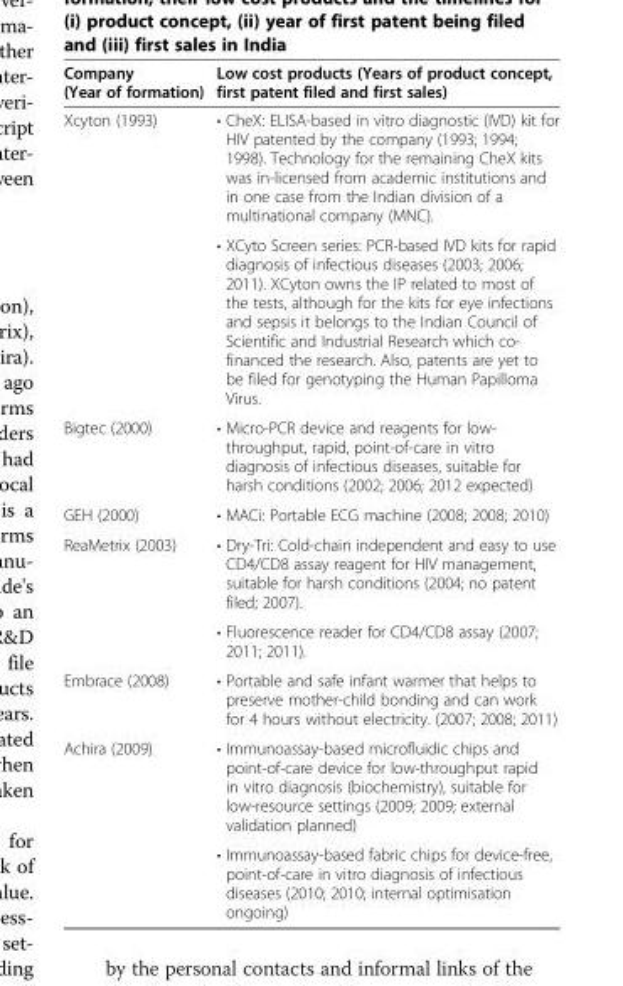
<table><thead><tr><td>Company (Year of formation)</td><td>Low cost products (Years of product concept, first patent filed and first sales)</td></tr></thead><tbody><tr><td rowspan="2">Xcyton (1993)</td><td>• CheX: ELISA-based in vitro diagnostic (IVD) kit for HIV patented by the company (1993; 1994; 1998). Technology for the remaining CheX kits was in-licensed from academic institutions and in one case from the Indian division of a multinational company (MNC).</td></tr><tr><td>• XCyto Screen series: PCR-based IVD kits for rapid diagnosis of infectious diseases (2003; 2006; 2011). XCyton owns the IP related to most of the tests, although for the kits for eye infections and sepsis it belongs to the Indian Council of Scientific and Industrial Research which co- financed the research. Also, patents are yet to be filed for genotyping the Human Papilloma Virus.</td></tr><tr><td>Bigtec (2000)</td><td>• Micro-PCR device and reagents for low- throughput, rapid, point-of-care in vitro diagnosis of infectious diseases, suitable for harsh conditions (2002; 2006; 2012 expected)</td></tr><tr><td>GEH (2000)</td><td>• MACi: Portable ECG machine (2008; 2008; 2010)</td></tr><tr><td rowspan="2">ReaMetrix (2003)</td><td>• Dry-Tri: Cold-chain independent and easy to use CD4/CD8 assay reagent for HIV management, suitable for harsh conditions (2004; no patent filed; 2007).</td></tr><tr><td>• Fluorescence reader for CD4/CD8 assay (2007; 2011; 2011).</td></tr><tr><td>Embrace (2008)</td><td>• Portable and safe infant warmer that helps to preserve mother-child bonding and can work for 4 hours without electricity. (2007; 2008; 2011)</td></tr><tr><td rowspan="2">Achira (2009)</td><td>• Immunoassay-based microfluidic chips and point-of-care device for low-throughput rapid in vitro diagnosis (biochemistry), suitable for low-resource settings (2009; 2009; external validation planned)</td></tr><tr><td>• Immunoassay-based fabric chips for device-free, point-of-care in vitro diagnosis of infectious diseases (2010; 2010; internal optimisation ongoing)</td></tr></tbody></table>